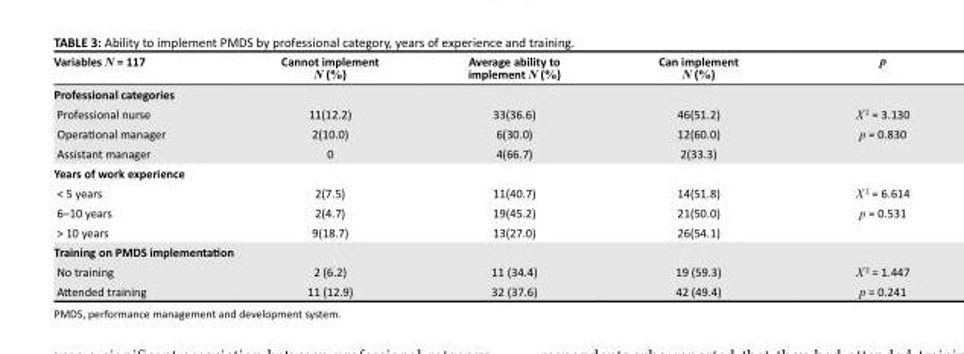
<table><thead><tr><td>Variables N = 117</td><td>Cannot implement N (%)</td><td>Average ability to implement N (%)</td><td>Can implement N (%)</td><td>p</td></tr></thead><tbody><tr><td colspan="5">Professional categories</td></tr><tr><td>Professional nurse</td><td>11(12.2)</td><td>33(36.6)</td><td>46(51.2)</td><td>X <sup>2</sup> = 3.130</td></tr><tr><td>Operational manager</td><td>2(10.0)</td><td>6(30.0)</td><td>12(60.0)</td><td>p = 0.830</td></tr><tr><td>Assistant manager</td><td>0</td><td>4(66.7)</td><td>2(33.3)</td><td></td></tr><tr><td colspan="5">Years of work experience</td></tr><tr><td>&lt; 5 years</td><td>2(7.5)</td><td>11(40.7)</td><td>14(51.8)</td><td>X <sup>2</sup> = 6.614</td></tr><tr><td>6–10 years</td><td>2(4.7)</td><td>19(45.2)</td><td>21(50.0)</td><td>p = 0.531</td></tr><tr><td>&gt; 10 years</td><td>9(18.7)</td><td>13(27.0)</td><td>26(54.1)</td><td></td></tr><tr><td colspan="5">Training on PMDS implementation</td></tr><tr><td>No training</td><td>2 (6.2)</td><td>11 (34.4)</td><td>19 (59.3)</td><td>X <sup>2</sup> = 1.447</td></tr><tr><td>Attended training</td><td>11 (12.9)</td><td>32 (37.6)</td><td>42 (49.4)</td><td>p = 0.241</td></tr></tbody></table>